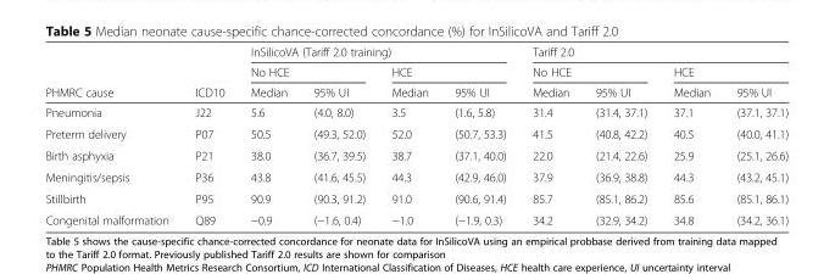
<table><thead><tr><td rowspan="3">PHMRC cause</td><td rowspan="3">ICD10</td><td colspan="4">InSilicoVA (Tariff 2.0 training)</td><td colspan="4">Tariff 2.0</td></tr><tr><td colspan="2">No HCE</td><td colspan="2">HCE</td><td colspan="2">No HCE</td><td colspan="2">HCE</td></tr><tr><td>Median</td><td>95% UI</td><td>Median</td><td>95% UI</td><td>Median</td><td>95% UI</td><td>Median</td><td>95% UI</td></tr></thead><tbody><tr><td>Pneumonia</td><td>J22</td><td>5.6</td><td>(4.0, 8.0)</td><td>3.5</td><td>(1.6, 5.8)</td><td>31.4</td><td>(31.4, 37.1)</td><td>37.1</td><td>(37.1, 37.1)</td></tr><tr><td>Preterm delivery</td><td>P07</td><td>50.5</td><td>(49.3, 52.0)</td><td>52.0</td><td>(50.7, 53.3)</td><td>41.5</td><td>(40.8, 42.2)</td><td>40.5</td><td>(40.0, 41.1)</td></tr><tr><td>Birth asphyxia</td><td>P21</td><td>38.0</td><td>(36.7, 39.5)</td><td>38.7</td><td>(37.1, 40.0)</td><td>22.0</td><td>(21.4, 22.6)</td><td>25.9</td><td>(25.1, 26.6)</td></tr><tr><td>Meningitis/sepsis</td><td>P36</td><td>43.8</td><td>(41.6, 45.5)</td><td>44.3</td><td>(42.9, 46.0)</td><td>37.9</td><td>(36.9, 38.8)</td><td>44.3</td><td>(43.2, 45.1)</td></tr><tr><td>Stillbirth</td><td>P95</td><td>90.9</td><td>(90.3, 91.2)</td><td>91.0</td><td>(90.6, 91.4)</td><td>85.7</td><td>(85.1, 86.2)</td><td>85.6</td><td>(85.1, 86.1)</td></tr><tr><td>Congenital malformation</td><td>Q89</td><td>−0.9</td><td>(−1.6, 0.4)</td><td>−1.0</td><td>(−1.9, 0.3)</td><td>34.2</td><td>(32.9, 34.2)</td><td>34.8</td><td>(34.2, 36.1)</td></tr></tbody></table>